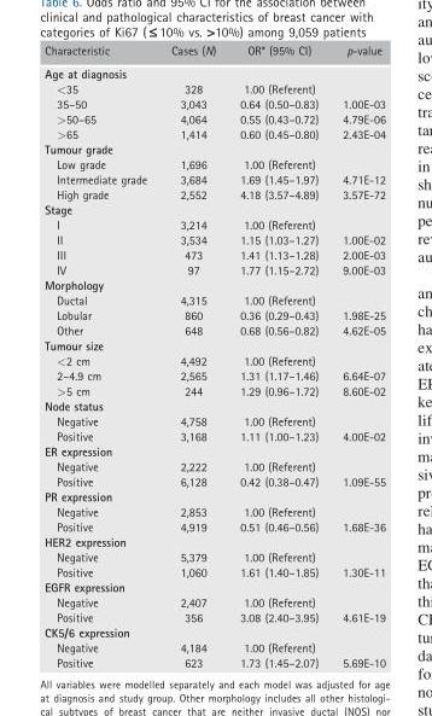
<table><thead><tr><td>Characteristic</td><td>Cases (N)</td><td>OR* (95% CI)</td><td>p-value</td></tr></thead><tbody><tr><td colspan="4">Age at diagnosis</td></tr><tr><td>&lt;35</td><td>328</td><td>1.00 (Referent)</td><td></td></tr><tr><td>35–50</td><td>3,043</td><td>0.64 (0.50–0.83)</td><td>1.00E-03</td></tr><tr><td>&gt;50–65</td><td>4,064</td><td>0.55 (0.43–0.72)</td><td>4.79E-06</td></tr><tr><td>&gt;65</td><td>1,414</td><td>0.60 (0.45–0.80)</td><td>2.43E-04</td></tr><tr><td colspan="4">Tumour grade</td></tr><tr><td>Low grade</td><td>1,696</td><td>1.00 (Referent)</td><td></td></tr><tr><td>Intermediate grade</td><td>3,684</td><td>1.69 (1.45–1.97)</td><td>4.71E-12</td></tr><tr><td>High grade</td><td>2,552</td><td>4.18 (3.57–4.89)</td><td>3.57E-72</td></tr><tr><td colspan="4">Stage</td></tr><tr><td>I</td><td>3,214</td><td>1.00 (Referent)</td><td></td></tr><tr><td>II</td><td>3,534</td><td>1.15 (1.03–1.27)</td><td>1.00E-02</td></tr><tr><td>III</td><td>473</td><td>1.41 (1.13–1.28)</td><td>2.00E-03</td></tr><tr><td>IV</td><td>97</td><td>1.77 (1.15–2.72)</td><td>9.00E-03</td></tr><tr><td colspan="4">Morphology</td></tr><tr><td>Ductal</td><td>4,315</td><td>1.00 (Referent)</td><td></td></tr><tr><td>Lobular</td><td>860</td><td>0.36 (0.29–0.43)</td><td>1.98E-25</td></tr><tr><td>Other</td><td>648</td><td>0.68 (0.56–0.82)</td><td>4.62E-05</td></tr><tr><td colspan="4">Tumour size</td></tr><tr><td>&lt;2 cm</td><td>4,492</td><td>1.00 (Referent)</td><td></td></tr><tr><td>2–4.9 cm</td><td>2,565</td><td>1.31 (1.17–1.46)</td><td>6.64E-07</td></tr><tr><td>&gt;5 cm</td><td>244</td><td>1.29 (0.96–1.72)</td><td>8.60E-02</td></tr><tr><td colspan="4">Node status</td></tr><tr><td>Negative</td><td>4,758</td><td>1.00 (Referent)</td><td></td></tr><tr><td>Positive</td><td>3,168</td><td>1.11 (1.00–1.23)</td><td>4.00E-02</td></tr><tr><td colspan="4">ER expression</td></tr><tr><td>Negative</td><td>2,222</td><td>1.00 (Referent)</td><td></td></tr><tr><td>Positive</td><td>6,128</td><td>0.42 (0.38–0.47)</td><td>1.09E-55</td></tr><tr><td colspan="4">PR expression</td></tr><tr><td>Negative</td><td>2,853</td><td>1.00 (Referent)</td><td></td></tr><tr><td>Positive</td><td>4,919</td><td>0.51 (0.46–0.56)</td><td>1.68E-36</td></tr><tr><td colspan="4">HER2 expression</td></tr><tr><td>Negative</td><td>5,379</td><td>1.00 (Referent)</td><td></td></tr><tr><td>Positive</td><td>1,060</td><td>1.61 (1.40–1.85)</td><td>1.30E-11</td></tr><tr><td colspan="4">EGFR expression</td></tr><tr><td>Negative</td><td>2,407</td><td>1.00 (Referent)</td><td></td></tr><tr><td>Positive</td><td>356</td><td>3.08 (2.40–3.95)</td><td>4.61E-19</td></tr><tr><td colspan="4">CK5/6 expression</td></tr><tr><td>Negative</td><td>4,184</td><td>1.00 (Referent)</td><td></td></tr><tr><td>Positive</td><td>623</td><td>1.73 (1.45–2.07)</td><td>5.69E-10</td></tr></tbody></table>